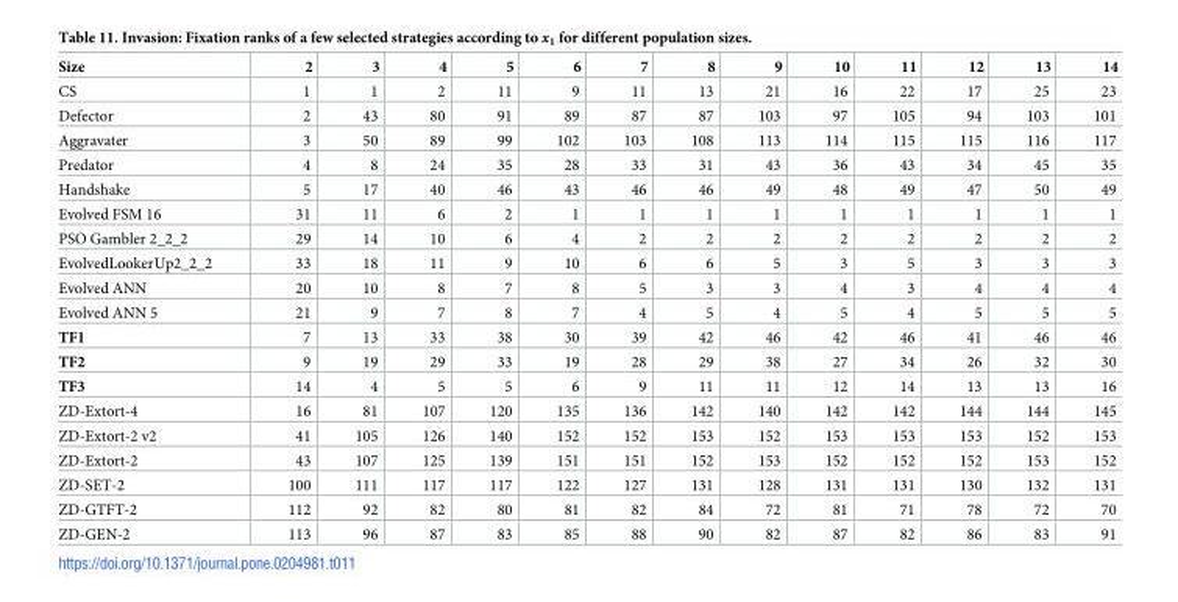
<table><thead><tr><td>Size</td><td>2</td><td>3</td><td>4</td><td>5</td><td>6</td><td>7</td><td>8</td><td>9</td><td>10</td><td>11</td><td>12</td><td>13</td><td>14</td></tr></thead><tbody><tr><td>CS</td><td>1</td><td>1</td><td>2</td><td>11</td><td>9</td><td>11</td><td>13</td><td>21</td><td>16</td><td>22</td><td>17</td><td>25</td><td>23</td></tr><tr><td>Defector</td><td>2</td><td>43</td><td>80</td><td>91</td><td>89</td><td>87</td><td>87</td><td>103</td><td>97</td><td>105</td><td>94</td><td>103</td><td>101</td></tr><tr><td>Aggravater</td><td>3</td><td>50</td><td>89</td><td>99</td><td>102</td><td>103</td><td>108</td><td>113</td><td>114</td><td>115</td><td>115</td><td>116</td><td>117</td></tr><tr><td>Predator</td><td>4</td><td>8</td><td>24</td><td>35</td><td>28</td><td>33</td><td>31</td><td>43</td><td>36</td><td>43</td><td>34</td><td>45</td><td>35</td></tr><tr><td>Handshake</td><td>5</td><td>17</td><td>40</td><td>46</td><td>43</td><td>46</td><td>46</td><td>49</td><td>48</td><td>49</td><td>47</td><td>50</td><td>49</td></tr><tr><td>Evolved FSM 16</td><td>31</td><td>11</td><td>6</td><td>2</td><td>1</td><td>1</td><td>1</td><td>1</td><td>1</td><td>1</td><td>1</td><td>1</td><td>1</td></tr><tr><td>PSO Gambler 2_2_2</td><td>29</td><td>14</td><td>10</td><td>6</td><td>4</td><td>2</td><td>2</td><td>2</td><td>2</td><td>2</td><td>2</td><td>2</td><td>2</td></tr><tr><td>EvolvedLookerUp2_2_2</td><td>33</td><td>18</td><td>11</td><td>9</td><td>10</td><td>6</td><td>6</td><td>5</td><td>3</td><td>5</td><td>3</td><td>3</td><td>3</td></tr><tr><td>Evolved ANN</td><td>20</td><td>10</td><td>8</td><td>7</td><td>8</td><td>5</td><td>3</td><td>3</td><td>4</td><td>3</td><td>4</td><td>4</td><td>4</td></tr><tr><td>Evolved ANN 5</td><td>21</td><td>9</td><td>7</td><td>8</td><td>7</td><td>4</td><td>5</td><td>4</td><td>5</td><td>4</td><td>5</td><td>5</td><td>5</td></tr><tr><td>TF1</td><td>7</td><td>13</td><td>33</td><td>38</td><td>30</td><td>39</td><td>42</td><td>46</td><td>42</td><td>46</td><td>41</td><td>46</td><td>46</td></tr><tr><td>TF2</td><td>9</td><td>19</td><td>29</td><td>33</td><td>19</td><td>28</td><td>29</td><td>38</td><td>27</td><td>34</td><td>26</td><td>32</td><td>30</td></tr><tr><td>TF3</td><td>14</td><td>4</td><td>5</td><td>5</td><td>6</td><td>9</td><td>11</td><td>11</td><td>12</td><td>14</td><td>13</td><td>13</td><td>16</td></tr><tr><td>ZD-Extort-4</td><td>16</td><td>81</td><td>107</td><td>120</td><td>135</td><td>136</td><td>142</td><td>140</td><td>142</td><td>142</td><td>144</td><td>144</td><td>145</td></tr><tr><td>ZD-Extort-2 v2</td><td>41</td><td>105</td><td>126</td><td>140</td><td>152</td><td>152</td><td>153</td><td>152</td><td>153</td><td>153</td><td>153</td><td>152</td><td>153</td></tr><tr><td>ZD-Extort-2</td><td>43</td><td>107</td><td>125</td><td>139</td><td>151</td><td>151</td><td>152</td><td>153</td><td>152</td><td>152</td><td>152</td><td>153</td><td>152</td></tr><tr><td>ZD-SET-2</td><td>100</td><td>111</td><td>117</td><td>117</td><td>122</td><td>127</td><td>131</td><td>128</td><td>131</td><td>131</td><td>130</td><td>132</td><td>131</td></tr><tr><td>ZD-GTFT-2</td><td>112</td><td>92</td><td>82</td><td>80</td><td>81</td><td>82</td><td>84</td><td>72</td><td>81</td><td>71</td><td>78</td><td>72</td><td>70</td></tr><tr><td>ZD-GEN-2</td><td>113</td><td>96</td><td>87</td><td>83</td><td>85</td><td>88</td><td>90</td><td>82</td><td>87</td><td>82</td><td>86</td><td>83</td><td>91</td></tr></tbody></table>